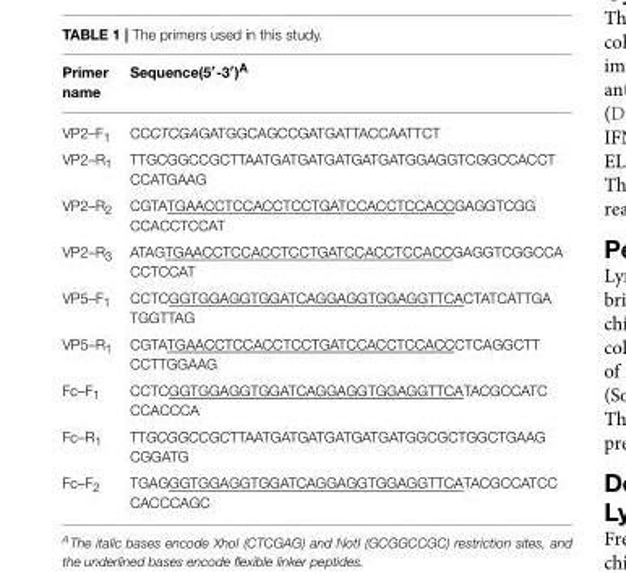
<table><thead><tr><td>Primer name</td><td>Sequence(5′-3′)<sup>A</sup></td></tr></thead><tbody><tr><td>VP2–F<sub>1</sub></td><td>CCCTCGAGATGGCAGCCGATGATTACCAATTCT</td></tr><tr><td>VP2–R<sub>1</sub></td><td>TTGCGGCCGCTTAATGATGATGATGATGATGGAGGTCGGCCACCT CCATGAAG</td></tr><tr><td>VP2–R<sub>2</sub></td><td>CGTATGAACCTCCACCTCCTGATCCACCTCCACCGAGGTCGG CCACCTCCAT</td></tr><tr><td>VP2–R<sub>3</sub></td><td>ATAGTGAACCTCCACCTCCTGATCCACCTCCACCGAGGTCGGCCA CCTCCAT</td></tr><tr><td>VP5–F<sub>1</sub></td><td>CCTCGGTGGAGGTGGATCAGGAGGTGGAGGTTCACTATCATTGA TGGTTAG</td></tr><tr><td>VP5–R<sub>1</sub></td><td>CGTATGAACCTCCACCTCCTGATCCACCTCCACCCTCAGGCTT CCTTGGAAG</td></tr><tr><td>Fc–F<sub>1</sub></td><td>CCTCGGTGGAGGTGGATCAGGAGGTGGAGGTTCATACGCCATC CCACCCA</td></tr><tr><td>Fc–R<sub>1</sub></td><td>TTGCGGCCGCTTAATGATGATGATGATGATGGCGCTGGCTGAAG CGGATG</td></tr><tr><td>Fc–F<sub>2</sub></td><td>TGAGGGTGGAGGTGGATCAGGAGGTGGAGGTTCATACGCCATCC CACCCAGC</td></tr></tbody></table>